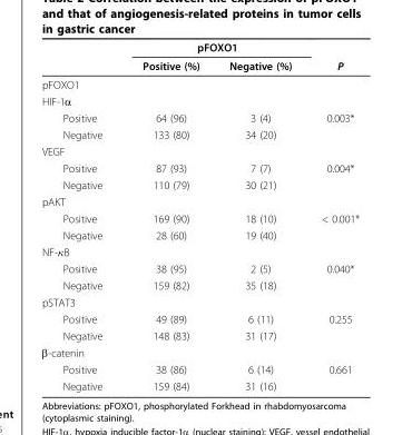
<table><thead><tr><td rowspan="2"></td><td colspan="2">pFOXO1</td><td rowspan="2">P</td></tr><tr><td>Positive (%)</td><td>Negative (%)</td></tr></thead><tbody><tr><td colspan="4">pFOXO1</td></tr><tr><td colspan="4">HIF-1α</td></tr><tr><td>Positive</td><td>64 (96)</td><td>3 (4)</td><td>0.003*</td></tr><tr><td>Negative</td><td>133 (80)</td><td>34 (20)</td><td></td></tr><tr><td colspan="4">VEGF</td></tr><tr><td>Positive</td><td>87 (93)</td><td>7 (7)</td><td>0.004*</td></tr><tr><td>Negative</td><td>110 (79)</td><td>30 (21)</td><td></td></tr><tr><td colspan="4">pAKT</td></tr><tr><td>Positive</td><td>169 (90)</td><td>18 (10)</td><td>&lt; 0.001*</td></tr><tr><td>Negative</td><td>28 (60)</td><td>19 (40)</td><td></td></tr><tr><td colspan="4">NF-κB</td></tr><tr><td>Positive</td><td>38 (95)</td><td>2 (5)</td><td>0.040*</td></tr><tr><td>Negative</td><td>159 (82)</td><td>35 (18)</td><td></td></tr><tr><td colspan="4">pSTAT3</td></tr><tr><td>Positive</td><td>49 (89)</td><td>6 (11)</td><td>0.255</td></tr><tr><td>Negative</td><td>148 (83)</td><td>31 (17)</td><td></td></tr><tr><td colspan="4">β-catenin</td></tr><tr><td>Positive</td><td>38 (86)</td><td>6 (14)</td><td>0.661</td></tr><tr><td>Negative</td><td>159 (84)</td><td>31 (16)</td><td></td></tr></tbody></table>